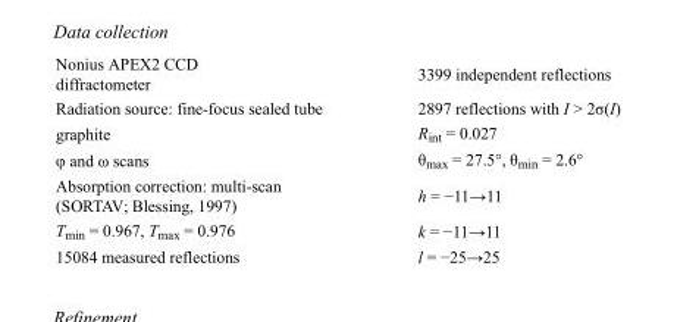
<table><tbody><tr><td>Nonius APEX2 CCD diffractometer</td><td>3399 independent reflections</td></tr><tr><td>Radiation source: fine-focus sealed tube</td><td>2897 reflections with I &gt; 2σ(I)</td></tr><tr><td>graphite</td><td>R<sub>int</sub> = 0.027</td></tr><tr><td>φ and ω scans</td><td>θ<sub>max</sub> = 27.5°, θ<sub>min</sub> = 2.6°</td></tr><tr><td>Absorption correction: multi-scan (SORTAV; Blessing, 1997)</td><td>h = −11→11</td></tr><tr><td>T<sub>min</sub> = 0.967, T<sub>max</sub> = 0.976</td><td>k = −11→11</td></tr><tr><td>15084 measured reflections</td><td>l = −25→25</td></tr></tbody></table>